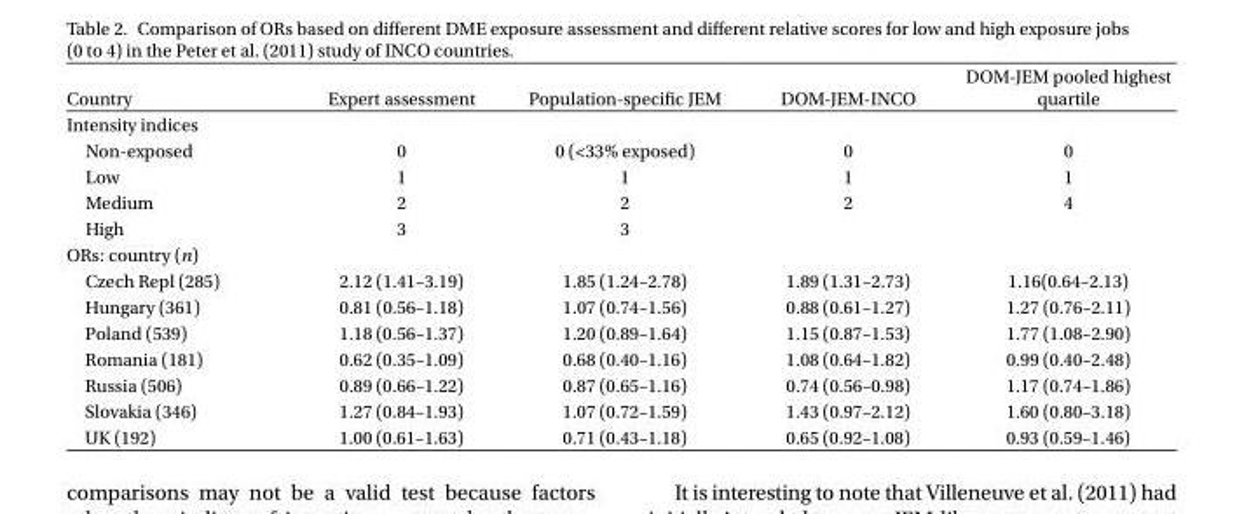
<table><thead><tr><td>Country</td><td>Expert assessment</td><td>Population-specific JEM</td><td>DOM-JEM-INCO</td><td>DOM-JEM pooled highest quartile</td></tr></thead><tbody><tr><td colspan="5">Intensity indices</td></tr><tr><td>Non-exposed</td><td>0</td><td>0 (&lt;33% exposed)</td><td>0</td><td>0</td></tr><tr><td>Low</td><td>1</td><td>1</td><td>1</td><td>1</td></tr><tr><td>Medium</td><td>2</td><td>2</td><td>2</td><td>4</td></tr><tr><td>High</td><td>3</td><td>3</td><td></td><td></td></tr><tr><td colspan="5">ORs: country (n)</td></tr><tr><td>Czech Repl (285)</td><td>2.12 (1.41–3.19)</td><td>1.85 (1.24–2.78)</td><td>1.89 (1.31–2.73)</td><td>1.16(0.64–2.13)</td></tr><tr><td>Hungary (361)</td><td>0.81 (0.56–1.18)</td><td>1.07 (0.74–1.56)</td><td>0.88 (0.61–1.27)</td><td>1.27 (0.76–2.11)</td></tr><tr><td>Poland (539)</td><td>1.18 (0.56–1.37)</td><td>1.20 (0.89–1.64)</td><td>1.15 (0.87–1.53)</td><td>1.77 (1.08–2.90)</td></tr><tr><td>Romania (181)</td><td>0.62 (0.35–1.09)</td><td>0.68 (0.40–1.16)</td><td>1.08 (0.64–1.82)</td><td>0.99 (0.40–2.48)</td></tr><tr><td>Russia (506)</td><td>0.89 (0.66–1.22)</td><td>0.87 (0.65–1.16)</td><td>0.74 (0.56–0.98)</td><td>1.17 (0.74–1.86)</td></tr><tr><td>Slovakia (346)</td><td>1.27 (0.84–1.93)</td><td>1.07 (0.72–1.59)</td><td>1.43 (0.97–2.12)</td><td>1.60 (0.80–3.18)</td></tr><tr><td>UK (192)</td><td>1.00 (0.61–1.63)</td><td>0.71 (0.43–1.18)</td><td>0.65 (0.92–1.08)</td><td>0.93 (0.59–1.46)</td></tr></tbody></table>